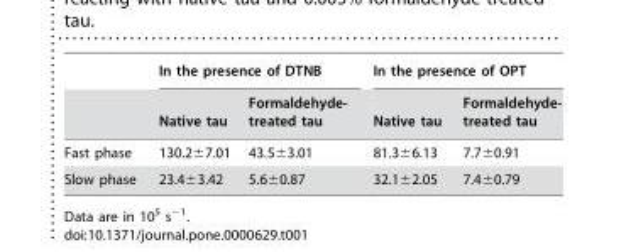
<table><thead><tr><td rowspan="2"></td><td colspan="2">In the presence of DTNB</td><td colspan="2">In the presence of OPT</td></tr><tr><td>Native tau</td><td>Formaldehyde- treated tau</td><td>Native tau</td><td>Formaldehyde- treated tau</td></tr></thead><tbody><tr><td>Fast phase</td><td>130.2±7.01</td><td>43.5±3.01</td><td>81.3±6.13</td><td>7.7±0.91</td></tr><tr><td>Slow phase</td><td>23.4±3.42</td><td>5.6±0.87</td><td>32.1±2.05</td><td>7.4±0.79</td></tr></tbody></table>